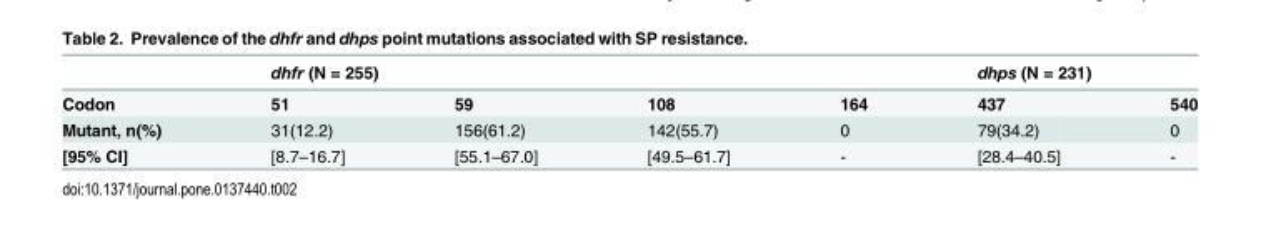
<table><thead><tr><td rowspan="2">Codon</td><td colspan="4">dhfr (N = 255)</td><td colspan="2">dhps (N = 231)</td></tr><tr><td>51</td><td>59</td><td>108</td><td>164</td><td>437</td><td>540</td></tr></thead><tbody><tr><td>Mutant, n(%)</td><td>31(12.2)</td><td>156(61.2)</td><td>142(55.7)</td><td>0</td><td>79(34.2)</td><td>0</td></tr><tr><td>[95% CI]</td><td>[8.7–16.7]</td><td>[55.1–67.0]</td><td>[49.5–61.7]</td><td>-</td><td>[28.4–40.5]</td><td>-</td></tr></tbody></table>